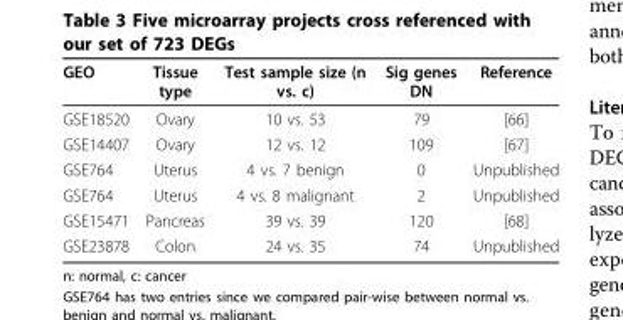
<table><thead><tr><td>GEO</td><td>Tissue type</td><td>Test sample size (n vs. c)</td><td>Sig genes DN</td><td>Reference</td></tr></thead><tbody><tr><td>GSE18520</td><td>Ovary</td><td>10 vs. 53</td><td>79</td><td>[66]</td></tr><tr><td>GSE14407</td><td>Ovary</td><td>12 vs. 12</td><td>109</td><td>[67]</td></tr><tr><td>GSE764</td><td>Uterus</td><td>4 vs. 7 benign</td><td>0</td><td>Unpublished</td></tr><tr><td>GSE764</td><td>Uterus</td><td>4 vs. 8 malignant</td><td>2</td><td>Unpublished</td></tr><tr><td>GSE15471</td><td>Pancreas</td><td>39 vs. 39</td><td>120</td><td>[68]</td></tr><tr><td>GSE23878</td><td>Colon</td><td>24 vs. 35</td><td>74</td><td>Unpublished</td></tr></tbody></table>